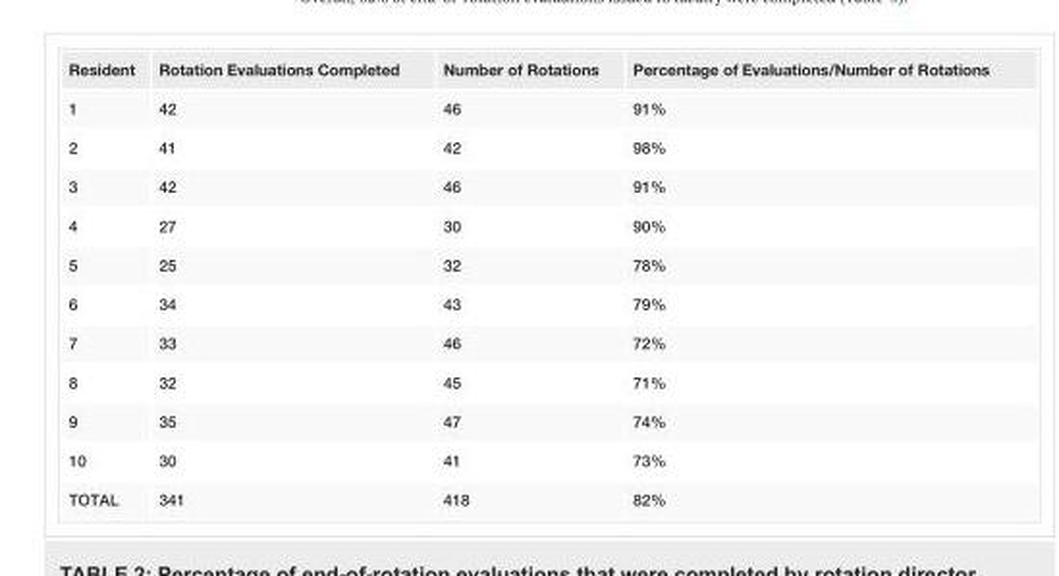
<table><tbody><tr><td>Resident</td><td>Rotation Evaluations Completed</td><td>Number of Rotations</td><td>Percentage of Evaluations/Number of Rotations</td></tr><tr><td>1</td><td>42</td><td>46</td><td>91%</td></tr><tr><td>2</td><td>41</td><td>42</td><td>98%</td></tr><tr><td>3</td><td>42</td><td>46</td><td>91%</td></tr><tr><td>4</td><td>27</td><td>30</td><td>90%</td></tr><tr><td>5</td><td>25</td><td>32</td><td>78%</td></tr><tr><td>6</td><td>34</td><td>43</td><td>79%</td></tr><tr><td>7</td><td>33</td><td>46</td><td>72%</td></tr><tr><td>8</td><td>32</td><td>45</td><td>71%</td></tr><tr><td>9</td><td>35</td><td>47</td><td>74%</td></tr><tr><td>10</td><td>30</td><td>41</td><td>73%</td></tr><tr><td>TOTAL</td><td>341</td><td>418</td><td>82%</td></tr></tbody></table>